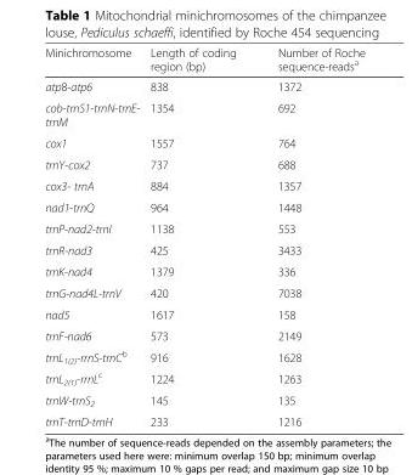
<table><thead><tr><td>Minichromosome</td><td>Length of coding region (bp)</td><td>Number of Roche sequence-reads<sup>a</sup></td></tr></thead><tbody><tr><td>atp8-atp6</td><td>838</td><td>1372</td></tr><tr><td>cob-trnS1-trnN-trnE- trnM</td><td>1354</td><td>692</td></tr><tr><td>cox1</td><td>1557</td><td>764</td></tr><tr><td>trnY-cox2</td><td>737</td><td>688</td></tr><tr><td>cox3- trnA</td><td>884</td><td>1357</td></tr><tr><td>nad1-trnQ</td><td>964</td><td>1448</td></tr><tr><td>trnP-nad2-trnI</td><td>1138</td><td>553</td></tr><tr><td>trnR-nad3</td><td>425</td><td>3433</td></tr><tr><td>trnK-nad4</td><td>1379</td><td>336</td></tr><tr><td>trnG-nad4L-trnV</td><td>420</td><td>7038</td></tr><tr><td>nad5</td><td>1617</td><td>158</td></tr><tr><td>trnF-nad6</td><td>573</td><td>2149</td></tr><tr><td>trnL<sub>1(2)</sub>-rrnS-trnC<sup>b</sup></td><td>916</td><td>1628</td></tr><tr><td>trnL<sub>2(1)</sub>-rrnL<sup>c</sup></td><td>1224</td><td>1263</td></tr><tr><td>trnW-trnS<sub>2</sub></td><td>145</td><td>135</td></tr><tr><td>trnT-trnD-trnH</td><td>233</td><td>1216</td></tr></tbody></table>